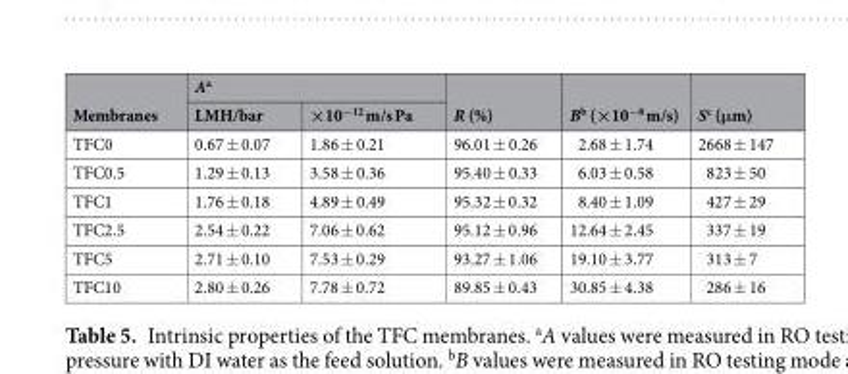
<table><thead><tr><td rowspan="2">Membranes</td><td colspan="2">A<sup>a</sup></td><td rowspan="2">R (%)</td><td rowspan="2">B<sup>b</sup> (×10<sup>−8</sup> m/s)</td><td rowspan="2">S<sup>c</sup> (μm)</td></tr><tr><td>LMH/bar</td><td>×10<sup>−12</sup> m/s Pa</td></tr></thead><tbody><tr><td>TFC0</td><td>0.67 ± 0.07</td><td>1.86 ± 0.21</td><td>96.01 ± 0.26</td><td>2.68 ± 1.74</td><td>2668 ± 147</td></tr><tr><td>TFC0.5</td><td>1.29 ± 0.13</td><td>3.58 ± 0.36</td><td>95.40 ± 0.33</td><td>6.03 ± 0.58</td><td>823 ± 50</td></tr><tr><td>TFC1</td><td>1.76 ± 0.18</td><td>4.89 ± 0.49</td><td>95.32 ± 0.32</td><td>8.40 ± 1.09</td><td>427 ± 29</td></tr><tr><td>TFC2.5</td><td>2.54 ± 0.22</td><td>7.06 ± 0.62</td><td>95.12 ± 0.96</td><td>12.64 ± 2.45</td><td>337 ± 19</td></tr><tr><td>TFC5</td><td>2.71 ± 0.10</td><td>7.53 ± 0.29</td><td>93.27 ± 1.06</td><td>19.10 ± 3.77</td><td>313 ± 7</td></tr><tr><td>TFC10</td><td>2.80 ± 0.26</td><td>7.78 ± 0.72</td><td>89.85 ± 0.43</td><td>30.85 ± 4.38</td><td>286 ± 16</td></tr></tbody></table>